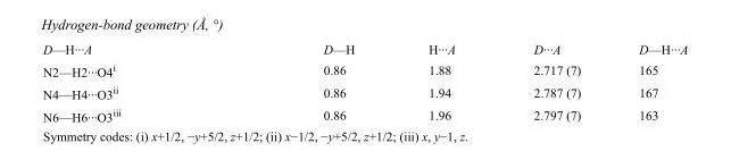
<table><tbody><tr><td>D—H···A</td><td>D—H</td><td>H···A</td><td>D···A</td><td>D—H···A</td></tr><tr><td>N2—H2···O4<sup>i</sup></td><td>0.86</td><td>1.88</td><td>2.717 (7)</td><td>165</td></tr><tr><td>N4—H4···O3<sup>ii</sup></td><td>0.86</td><td>1.94</td><td>2.787 (7)</td><td>167</td></tr><tr><td>N6—H6···O3<sup>iii</sup></td><td>0.86</td><td>1.96</td><td>2.797 (7)</td><td>163</td></tr></tbody></table>